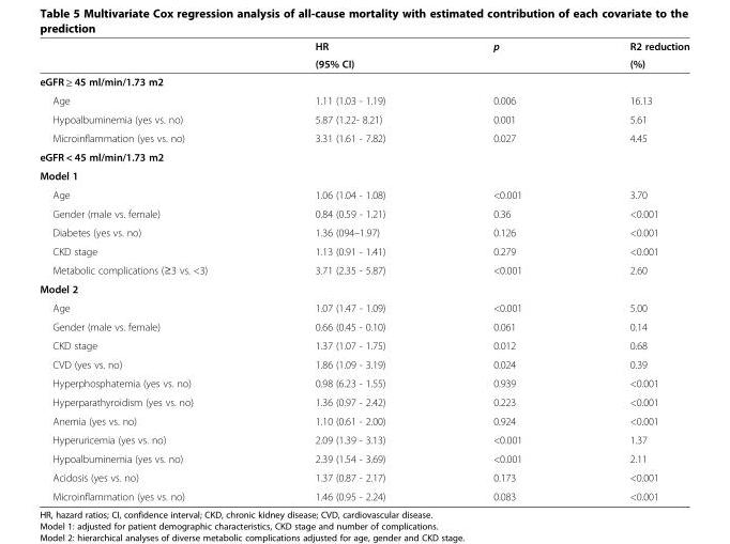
<table><thead><tr><td rowspan="2"></td><td rowspan="2">HR (95% CI)</td><td rowspan="2">p</td><td rowspan="2">R2 reduction (%)</td></tr><tr></tr></thead><tbody><tr><td colspan="4">eGFR ≥ 45 ml/min/1.73 m2</td></tr><tr><td>Age</td><td>1.11 (1.03 - 1.19)</td><td>0.006</td><td>16.13</td></tr><tr><td>Hypoalbuminemia (yes vs. no)</td><td>5.87 (1.22- 8.21)</td><td>0.001</td><td>5.61</td></tr><tr><td>Microinflammation (yes vs. no)</td><td>3.31 (1.61 - 7.82)</td><td>0.027</td><td>4.45</td></tr><tr><td colspan="4">eGFR &lt; 45 ml/min/1.73 m2</td></tr><tr><td colspan="4">Model 1</td></tr><tr><td>Age</td><td>1.06 (1.04 - 1.08)</td><td>&lt;0.001</td><td>3.70</td></tr><tr><td>Gender (male vs. female)</td><td>0.84 (0.59 - 1.21)</td><td>0.36</td><td>&lt;0.001</td></tr><tr><td>Diabetes (yes vs. no)</td><td>1.36 (094–1.97)</td><td>0.126</td><td>&lt;0.001</td></tr><tr><td>CKD stage</td><td>1.13 (0.91 - 1.41)</td><td>0.279</td><td>&lt;0.001</td></tr><tr><td>Metabolic complications (≥3 vs. &lt;3)</td><td>3.71 (2.35 - 5.87)</td><td>&lt;0.001</td><td>2.60</td></tr><tr><td colspan="4">Model 2</td></tr><tr><td>Age</td><td>1.07 (1.47 - 1.09)</td><td>&lt;0.001</td><td>5.00</td></tr><tr><td>Gender (male vs. female)</td><td>0.66 (0.45 - 0.10)</td><td>0.061</td><td>0.14</td></tr><tr><td>CKD stage</td><td>1.37 (1.07 - 1.75)</td><td>0.012</td><td>0.68</td></tr><tr><td>CVD (yes vs. no)</td><td>1.86 (1.09 - 3.19)</td><td>0.024</td><td>0.39</td></tr><tr><td>Hyperphosphatemia (yes vs. no)</td><td>0.98 (6.23 - 1.55)</td><td>0.939</td><td>&lt;0.001</td></tr><tr><td>Hyperparathyroidism (yes vs. no)</td><td>1.36 (0.97 - 2.42)</td><td>0.223</td><td>&lt;0.001</td></tr><tr><td>Anemia (yes vs. no)</td><td>1.10 (0.61 - 2.00)</td><td>0.924</td><td>&lt;0.001</td></tr><tr><td>Hyperuricemia (yes vs. no)</td><td>2.09 (1.39 - 3.13)</td><td>&lt;0.001</td><td>1.37</td></tr><tr><td>Hypoalbuminemia (yes vs. no)</td><td>2.39 (1.54 - 3.69)</td><td>&lt;0.001</td><td>2.11</td></tr><tr><td>Acidosis (yes vs. no)</td><td>1.37 (0.87 - 2.17)</td><td>0.173</td><td>&lt;0.001</td></tr><tr><td>Microinflammation (yes vs. no)</td><td>1.46 (0.95 - 2.24)</td><td>0.083</td><td>&lt;0.001</td></tr></tbody></table>